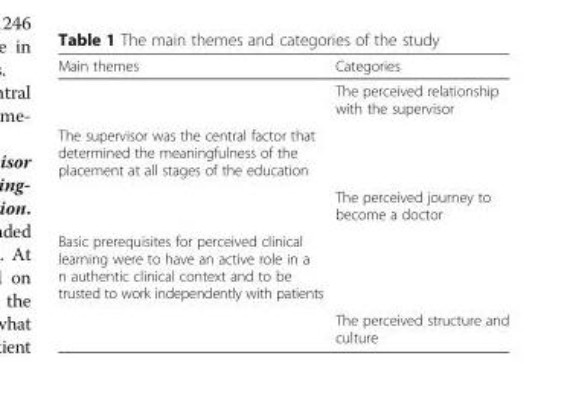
<table><thead><tr><td>Main themes</td><td>Categories</td></tr></thead><tbody><tr><td></td><td>The perceived relationship with the supervisor</td></tr><tr><td colspan="2">The supervisor was the central factor that determined the meaningfulness of the placement at all stages of the education</td></tr><tr><td></td><td>The perceived journey to become a doctor</td></tr><tr><td colspan="2">Basic prerequisites for perceived clinical learning were to have an active role in a n authentic clinical context and to be trusted to work independently with patients</td></tr><tr><td></td><td>The perceived structure and culture</td></tr></tbody></table>